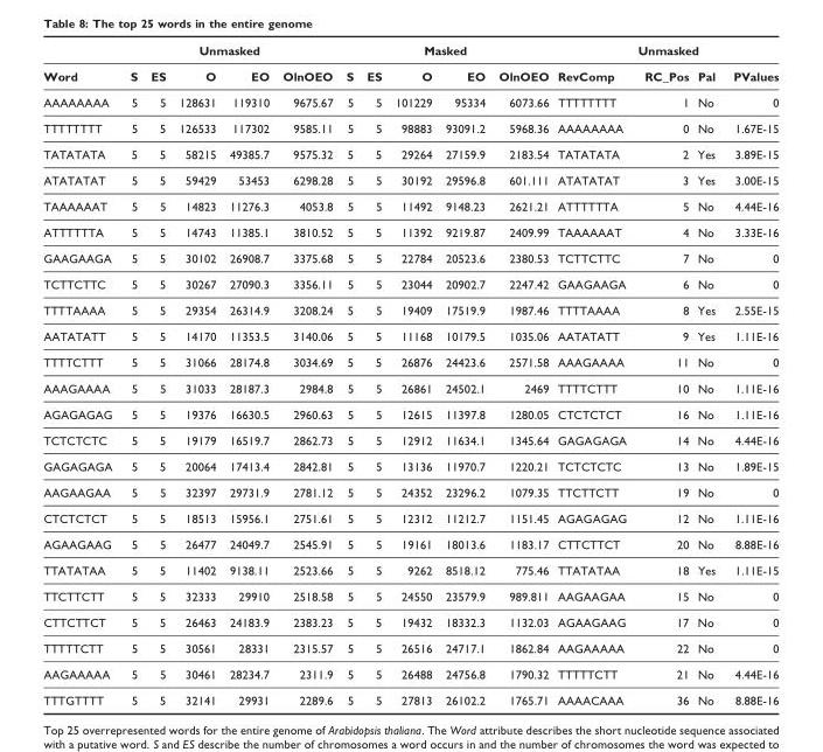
<table><thead><tr><td rowspan="2">Word</td><td colspan="5">Unmasked</td><td colspan="5">Masked</td><td colspan="4">Unmasked</td></tr><tr><td>S</td><td>ES</td><td>O</td><td>EO</td><td>OlnOEO</td><td>S</td><td>ES</td><td>O</td><td>EO</td><td>OlnOEO</td><td>RevComp</td><td>RC_Pos</td><td>Pal</td><td>PValues</td></tr></thead><tbody><tr><td>AAAAAAAA</td><td>5</td><td>5</td><td>128631</td><td>119310</td><td>9675.67</td><td>5</td><td>5</td><td>101229</td><td>95334</td><td>6073.66</td><td>TTTTTTTT</td><td>1</td><td>No</td><td>0</td></tr><tr><td>TTTTTTTT</td><td>5</td><td>5</td><td>126533</td><td>117302</td><td>9585.11</td><td>5</td><td>5</td><td>98883</td><td>93091.2</td><td>5968.36</td><td>AAAAAAAA</td><td>0</td><td>No</td><td>1.67E-15</td></tr><tr><td>TATATATA</td><td>5</td><td>5</td><td>58215</td><td>49385.7</td><td>9575.32</td><td>5</td><td>5</td><td>29264</td><td>27159.9</td><td>2183.54</td><td>TATATATA</td><td>2</td><td>Yes</td><td>3.89E-15</td></tr><tr><td>ATATATAT</td><td>5</td><td>5</td><td>59429</td><td>53453</td><td>6298.28</td><td>5</td><td>5</td><td>30192</td><td>29596.8</td><td>601.111</td><td>ATATATAT</td><td>3</td><td>Yes</td><td>3.00E-15</td></tr><tr><td>TAAAAAAT</td><td>5</td><td>5</td><td>14823</td><td>11276.3</td><td>4053.8</td><td>5</td><td>5</td><td>11492</td><td>9148.23</td><td>2621.21</td><td>ATTTTTTA</td><td>5</td><td>No</td><td>4.44E-16</td></tr><tr><td>ATTTTTTA</td><td>5</td><td>5</td><td>14743</td><td>11385.1</td><td>3810.52</td><td>5</td><td>5</td><td>11392</td><td>9219.87</td><td>2409.99</td><td>TAAAAAAT</td><td>4</td><td>No</td><td>3.33E-16</td></tr><tr><td>GAAGAAGA</td><td>5</td><td>5</td><td>30102</td><td>26908.7</td><td>3375.68</td><td>5</td><td>5</td><td>22784</td><td>20523.6</td><td>2380.53</td><td>TCTTCTTC</td><td>7</td><td>No</td><td>0</td></tr><tr><td>TCTTCTTC</td><td>5</td><td>5</td><td>30267</td><td>27090.3</td><td>3356.11</td><td>5</td><td>5</td><td>23044</td><td>20902.7</td><td>2247.42</td><td>GAAGAAGA</td><td>6</td><td>No</td><td>0</td></tr><tr><td>TTTTAAAA</td><td>5</td><td>5</td><td>29354</td><td>26314.9</td><td>3208.24</td><td>5</td><td>5</td><td>19409</td><td>17519.9</td><td>1987.46</td><td>TTTTAAAA</td><td>8</td><td>Yes</td><td>2.55E-15</td></tr><tr><td>AATATATT</td><td>5</td><td>5</td><td>14170</td><td>11353.5</td><td>3140.06</td><td>5</td><td>5</td><td>11168</td><td>10179.5</td><td>1035.06</td><td>AATATATT</td><td>9</td><td>Yes</td><td>1.11E-16</td></tr><tr><td>TTTTCTTT</td><td>5</td><td>5</td><td>31066</td><td>28174.8</td><td>3034.69</td><td>5</td><td>5</td><td>26876</td><td>24423.6</td><td>2571.58</td><td>AAAGAAAA</td><td>11</td><td>No</td><td>0</td></tr><tr><td>AAAGAAAA</td><td>5</td><td>5</td><td>31033</td><td>28187.3</td><td>2984.8</td><td>5</td><td>5</td><td>26861</td><td>24502.1</td><td>2469</td><td>TTTTCTTT</td><td>10</td><td>No</td><td>1.11E-16</td></tr><tr><td>AGAGAGAG</td><td>5</td><td>5</td><td>19376</td><td>16630.5</td><td>2960.63</td><td>5</td><td>5</td><td>12615</td><td>11397.8</td><td>1280.05</td><td>CTCTCTCT</td><td>16</td><td>No</td><td>1.11E-16</td></tr><tr><td>TCTCTCTC</td><td>5</td><td>5</td><td>19179</td><td>16519.7</td><td>2862.73</td><td>5</td><td>5</td><td>12912</td><td>11634.1</td><td>1345.64</td><td>GAGAGAGA</td><td>14</td><td>No</td><td>4.44E-16</td></tr><tr><td>GAGAGAGA</td><td>5</td><td>5</td><td>20064</td><td>17413.4</td><td>2842.81</td><td>5</td><td>5</td><td>13136</td><td>11970.7</td><td>1220.21</td><td>TCTCTCTC</td><td>13</td><td>No</td><td>1.89E-15</td></tr><tr><td>AAGAAGAA</td><td>5</td><td>5</td><td>32397</td><td>29731.9</td><td>2781.12</td><td>5</td><td>5</td><td>24352</td><td>23296.2</td><td>1079.35</td><td>TTCTTCTT</td><td>19</td><td>No</td><td>0</td></tr><tr><td>CTCTCTCT</td><td>5</td><td>5</td><td>18513</td><td>15956.1</td><td>2751.61</td><td>5</td><td>5</td><td>12312</td><td>11212.7</td><td>1151.45</td><td>AGAGAGAG</td><td>12</td><td>No</td><td>1.11E-16</td></tr><tr><td>AGAAGAAG</td><td>5</td><td>5</td><td>26477</td><td>24049.7</td><td>2545.91</td><td>5</td><td>5</td><td>19161</td><td>18013.6</td><td>1183.17</td><td>CTTCTTCT</td><td>20</td><td>No</td><td>8.88E-16</td></tr><tr><td>TTATATAA</td><td>5</td><td>5</td><td>11402</td><td>9138.11</td><td>2523.66</td><td>5</td><td>5</td><td>9262</td><td>8518.12</td><td>775.46</td><td>TTATATAA</td><td>18</td><td>Yes</td><td>1.11E-15</td></tr><tr><td>TTCTTCTT</td><td>5</td><td>5</td><td>32333</td><td>29910</td><td>2518.58</td><td>5</td><td>5</td><td>24550</td><td>23579.9</td><td>989.811</td><td>AAGAAGAA</td><td>15</td><td>No</td><td>0</td></tr><tr><td>CTTCTTCT</td><td>5</td><td>5</td><td>26463</td><td>24183.9</td><td>2383.23</td><td>5</td><td>5</td><td>19432</td><td>18332.3</td><td>1132.03</td><td>AGAAGAAG</td><td>17</td><td>No</td><td>0</td></tr><tr><td>TTTTTCTT</td><td>5</td><td>5</td><td>30561</td><td>28331</td><td>2315.57</td><td>5</td><td>5</td><td>26516</td><td>24717.1</td><td>1862.84</td><td>AAGAAAAA</td><td>22</td><td>No</td><td>0</td></tr><tr><td>AAGAAAAA</td><td>5</td><td>5</td><td>30461</td><td>28234.7</td><td>2311.9</td><td>5</td><td>5</td><td>26488</td><td>24756.8</td><td>1790.32</td><td>TTTTTCTT</td><td>21</td><td>No</td><td>4.44E-16</td></tr><tr><td>TTTGTTTT</td><td>5</td><td>5</td><td>32141</td><td>29931</td><td>2289.6</td><td>5</td><td>5</td><td>27813</td><td>26102.2</td><td>1765.71</td><td>AAAACAAA</td><td>36</td><td>No</td><td>8.88E-16</td></tr></tbody></table>